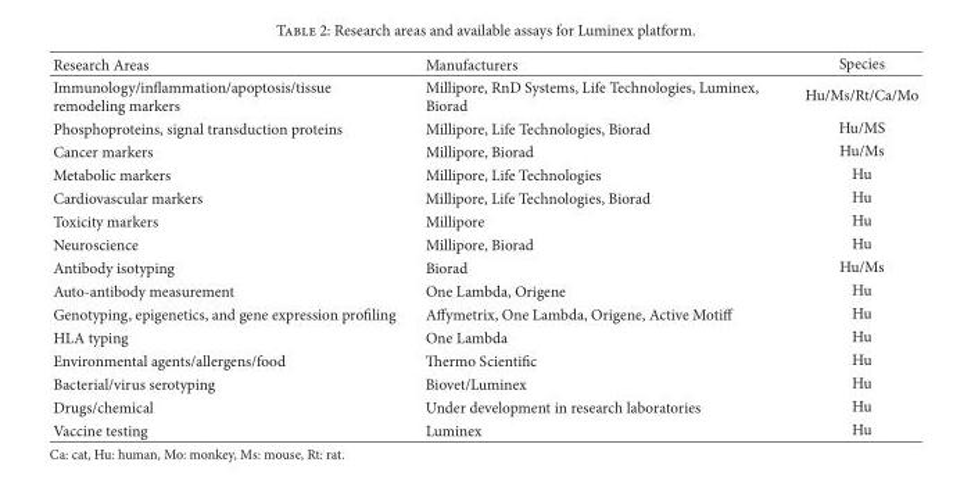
<table><thead><tr><td>Research Areas</td><td>Manufacturers</td><td>Species</td></tr></thead><tbody><tr><td>Immunology/inflammation/apoptosis/tissue remodeling markers</td><td>Millipore, RnD Systems, Life Technologies, Luminex, Biorad</td><td>Hu/Ms/Rt/Ca/Mo</td></tr><tr><td>Phosphoproteins, signal transduction proteins</td><td>Millipore, Life Technologies, Biorad</td><td>Hu/MS</td></tr><tr><td>Cancer markers</td><td>Millipore, Biorad</td><td>Hu/Ms</td></tr><tr><td>Metabolic markers</td><td>Millipore, Life Technologies</td><td>Hu</td></tr><tr><td>Cardiovascular markers</td><td>Millipore, Life Technologies, Biorad</td><td>Hu</td></tr><tr><td>Toxicity markers</td><td>Millipore</td><td>Hu</td></tr><tr><td>Neuroscience</td><td>Millipore, Biorad</td><td>Hu</td></tr><tr><td>Antibody isotyping</td><td>Biorad</td><td>Hu/Ms</td></tr><tr><td>Auto-antibody measurement</td><td>One Lambda, Origene</td><td>Hu</td></tr><tr><td>Genotyping, epigenetics, and gene expression profiling</td><td>Affymetrix, One Lambda, Origene, Active Motiff</td><td>Hu</td></tr><tr><td>HLA typing</td><td>One Lambda</td><td>Hu</td></tr><tr><td>Environmental agents/allergens/food</td><td>Thermo Scientific</td><td>Hu</td></tr><tr><td>Bacterial/virus serotyping</td><td>Biovet/Luminex</td><td>Hu</td></tr><tr><td>Drugs/chemical</td><td>Under development in research laboratories</td><td>Hu</td></tr><tr><td>Vaccine testing</td><td>Luminex</td><td>Hu</td></tr></tbody></table>